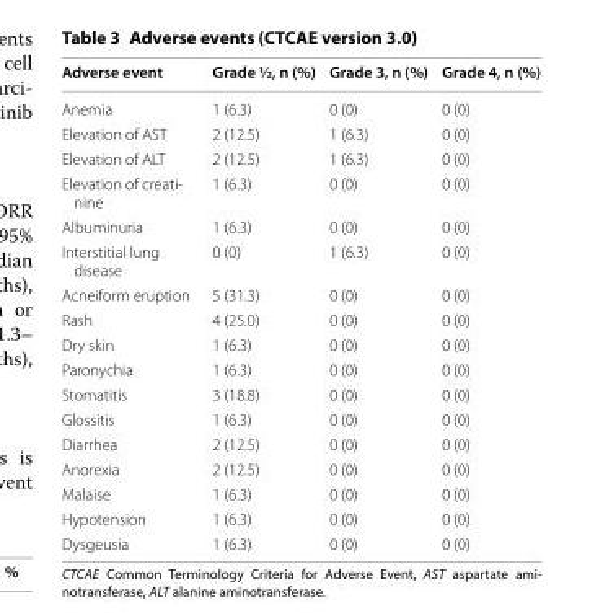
<table><thead><tr><td>Adverse event</td><td>Grade ½, n (%)</td><td>Grade 3, n (%)</td><td>Grade 4, n (%)</td></tr></thead><tbody><tr><td>Anemia</td><td>1 (6.3)</td><td>0 (0)</td><td>0 (0)</td></tr><tr><td>Elevation of AST</td><td>2 (12.5)</td><td>1 (6.3)</td><td>0 (0)</td></tr><tr><td>Elevation of ALT</td><td>2 (12.5)</td><td>1 (6.3)</td><td>0 (0)</td></tr><tr><td>Elevation of creati‑ nine</td><td>1 (6.3)</td><td>0 (0)</td><td>0 (0)</td></tr><tr><td>Albuminuria</td><td>1 (6.3)</td><td>0 (0)</td><td>0 (0)</td></tr><tr><td>Interstitial lung disease</td><td>0 (0)</td><td>1 (6.3)</td><td>0 (0)</td></tr><tr><td>Acneiform eruption</td><td>5 (31.3)</td><td>0 (0)</td><td>0 (0)</td></tr><tr><td>Rash</td><td>4 (25.0)</td><td>0 (0)</td><td>0 (0)</td></tr><tr><td>Dry skin</td><td>1 (6.3)</td><td>0 (0)</td><td>0 (0)</td></tr><tr><td>Paronychia</td><td>1 (6.3)</td><td>0 (0)</td><td>0 (0)</td></tr><tr><td>Stomatitis</td><td>3 (18.8)</td><td>0 (0)</td><td>0 (0)</td></tr><tr><td>Glossitis</td><td>1 (6.3)</td><td>0 (0)</td><td>0 (0)</td></tr><tr><td>Diarrhea</td><td>2 (12.5)</td><td>0 (0)</td><td>0 (0)</td></tr><tr><td>Anorexia</td><td>2 (12.5)</td><td>0 (0)</td><td>0 (0)</td></tr><tr><td>Malaise</td><td>1 (6.3)</td><td>0 (0)</td><td>0 (0)</td></tr><tr><td>Hypotension</td><td>1 (6.3)</td><td>0 (0)</td><td>0 (0)</td></tr><tr><td>Dysgeusia</td><td>1 (6.3)</td><td>0 (0)</td><td>0 (0)</td></tr></tbody></table>